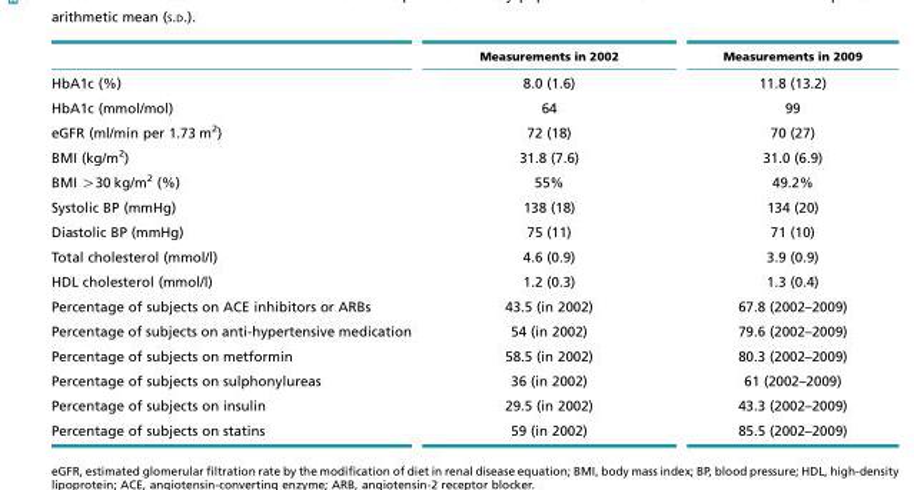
<table><thead><tr><td></td><td>Measurements in 2002</td><td>Measurements in 2009</td></tr></thead><tbody><tr><td>HbA1c (%)</td><td>8.0 (1.6)</td><td>11.8 (13.2)</td></tr><tr><td>HbA1c (mmol/mol)</td><td>64</td><td>99</td></tr><tr><td>eGFR (ml/min per 1.73 m<sup>2</sup>)</td><td>72 (18)</td><td>70 (27)</td></tr><tr><td>BMI (kg/m<sup>2</sup>)</td><td>31.8 (7.6)</td><td>31.0 (6.9)</td></tr><tr><td>BMI &gt;30 kg/m<sup>2</sup> (%)</td><td>55%</td><td>49.2%</td></tr><tr><td>Systolic BP (mmHg)</td><td>138 (18)</td><td>134 (20)</td></tr><tr><td>Diastolic BP (mmHg)</td><td>75 (11)</td><td>71 (10)</td></tr><tr><td>Total cholesterol (mmol/l)</td><td>4.6 (0.9)</td><td>3.9 (0.9)</td></tr><tr><td>HDL cholesterol (mmol/l)</td><td>1.2 (0.3)</td><td>1.3 (0.4)</td></tr><tr><td>Percentage of subjects on ACE inhibitors or ARBs</td><td>43.5 (in 2002)</td><td>67.8 (2002–2009)</td></tr><tr><td>Percentage of subjects on anti-hypertensive medication</td><td>54 (in 2002)</td><td>79.6 (2002–2009)</td></tr><tr><td>Percentage of subjects on metformin</td><td>58.5 (in 2002)</td><td>80.3 (2002–2009)</td></tr><tr><td>Percentage of subjects on sulphonylureas</td><td>36 (in 2002)</td><td>61 (2002–2009)</td></tr><tr><td>Percentage of subjects on insulin</td><td>29.5 (in 2002)</td><td>43.3 (2002–2009)</td></tr><tr><td>Percentage of subjects on statins</td><td>59 (in 2002)</td><td>85.5 (2002–2009)</td></tr></tbody></table>